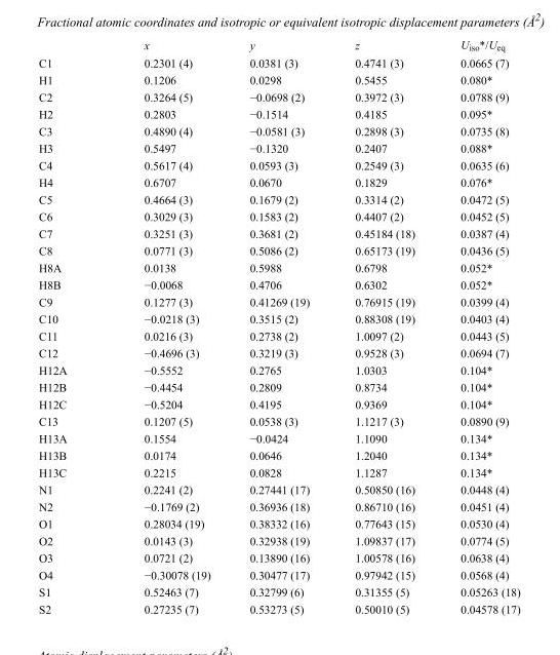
<table><thead><tr><td></td><td>x</td><td>y</td><td>z</td><td>U<sub>iso</sub>*/U<sub>eq</sub></td></tr></thead><tbody><tr><td>C1</td><td>0.2301 (4)</td><td>0.0381 (3)</td><td>0.4741 (3)</td><td>0.0665 (7)</td></tr><tr><td>H1</td><td>0.1206</td><td>0.0298</td><td>0.5455</td><td>0.080*</td></tr><tr><td>C2</td><td>0.3264 (5)</td><td>−0.0698 (2)</td><td>0.3972 (3)</td><td>0.0788 (9)</td></tr><tr><td>H2</td><td>0.2803</td><td>−0.1514</td><td>0.4185</td><td>0.095*</td></tr><tr><td>C3</td><td>0.4890 (4)</td><td>−0.0581 (3)</td><td>0.2898 (3)</td><td>0.0735 (8)</td></tr><tr><td>H3</td><td>0.5497</td><td>−0.1320</td><td>0.2407</td><td>0.088*</td></tr><tr><td>C4</td><td>0.5617 (4)</td><td>0.0593 (3)</td><td>0.2549 (3)</td><td>0.0635 (6)</td></tr><tr><td>H4</td><td>0.6707</td><td>0.0670</td><td>0.1829</td><td>0.076*</td></tr><tr><td>C5</td><td>0.4664 (3)</td><td>0.1679 (2)</td><td>0.3314 (2)</td><td>0.0472 (5)</td></tr><tr><td>C6</td><td>0.3029 (3)</td><td>0.1583 (2)</td><td>0.4407 (2)</td><td>0.0452 (5)</td></tr><tr><td>C7</td><td>0.3251 (3)</td><td>0.3681 (2)</td><td>0.45184 (18)</td><td>0.0387 (4)</td></tr><tr><td>C8</td><td>0.0771 (3)</td><td>0.5086 (2)</td><td>0.65173 (19)</td><td>0.0436 (5)</td></tr><tr><td>H8A</td><td>0.0138</td><td>0.5988</td><td>0.6798</td><td>0.052*</td></tr><tr><td>H8B</td><td>−0.0068</td><td>0.4706</td><td>0.6302</td><td>0.052*</td></tr><tr><td>C9</td><td>0.1277 (3)</td><td>0.41269 (19)</td><td>0.76915 (19)</td><td>0.0399 (4)</td></tr><tr><td>C10</td><td>−0.0218 (3)</td><td>0.3515 (2)</td><td>0.88308 (19)</td><td>0.0403 (4)</td></tr><tr><td>C11</td><td>0.0216 (3)</td><td>0.2738 (2)</td><td>1.0097 (2)</td><td>0.0443 (5)</td></tr><tr><td>C12</td><td>−0.4696 (3)</td><td>0.3219 (3)</td><td>0.9528 (3)</td><td>0.0694 (7)</td></tr><tr><td>H12A</td><td>−0.5552</td><td>0.2765</td><td>1.0303</td><td>0.104*</td></tr><tr><td>H12B</td><td>−0.4454</td><td>0.2809</td><td>0.8734</td><td>0.104*</td></tr><tr><td>H12C</td><td>−0.5204</td><td>0.4195</td><td>0.9369</td><td>0.104*</td></tr><tr><td>C13</td><td>0.1207 (5)</td><td>0.0538 (3)</td><td>1.1217 (3)</td><td>0.0890 (9)</td></tr><tr><td>H13A</td><td>0.1554</td><td>−0.0424</td><td>1.1090</td><td>0.134*</td></tr><tr><td>H13B</td><td>0.0174</td><td>0.0646</td><td>1.2040</td><td>0.134*</td></tr><tr><td>H13C</td><td>0.2215</td><td>0.0828</td><td>1.1287</td><td>0.134*</td></tr><tr><td>N1</td><td>0.2241 (2)</td><td>0.27441 (17)</td><td>0.50850 (16)</td><td>0.0448 (4)</td></tr><tr><td>N2</td><td>−0.1769 (2)</td><td>0.36936 (18)</td><td>0.86710 (16)</td><td>0.0451 (4)</td></tr><tr><td>O1</td><td>0.28034 (19)</td><td>0.38332 (16)</td><td>0.77643 (15)</td><td>0.0530 (4)</td></tr><tr><td>O2</td><td>0.0143 (3)</td><td>0.32938 (19)</td><td>1.09837 (17)</td><td>0.0774 (5)</td></tr><tr><td>O3</td><td>0.0721 (2)</td><td>0.13890 (16)</td><td>1.00578 (16)</td><td>0.0638 (4)</td></tr><tr><td>O4</td><td>−0.30078 (19)</td><td>0.30477 (17)</td><td>0.97942 (15)</td><td>0.0568 (4)</td></tr><tr><td>S1</td><td>0.52463 (7)</td><td>0.32799 (6)</td><td>0.31355 (5)</td><td>0.05263 (18)</td></tr><tr><td>S2</td><td>0.27235 (7)</td><td>0.53273 (5)</td><td>0.50010 (5)</td><td>0.04578 (17)</td></tr></tbody></table>